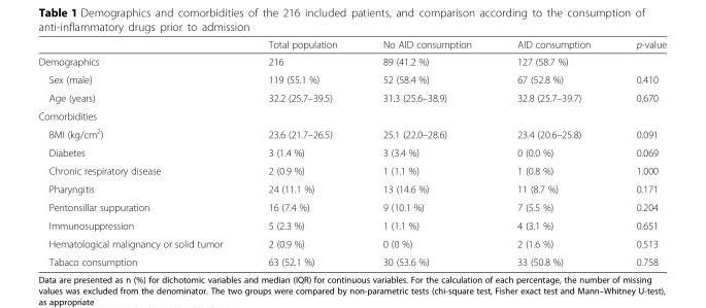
<table><thead><tr><td></td><td>Total population</td><td>No AID consumption</td><td>AID consumption</td><td>p-value</td></tr></thead><tbody><tr><td>Demographics</td><td>216</td><td>89 (41.2 %)</td><td>127 (58.7 %)</td><td></td></tr><tr><td>Sex (male)</td><td>119 (55.1 %)</td><td>52 (58.4 %)</td><td>67 (52.8 %)</td><td>0.410</td></tr><tr><td>Age (years)</td><td>32.2 (25.7–39.5)</td><td>31.3 (25.6–38.9)</td><td>32.8 (25.7–39.7)</td><td>0.670</td></tr><tr><td colspan="5">Comorbidities</td></tr><tr><td>BMI (kg/cm<sup>2</sup>)</td><td>23.6 (21.7–26.5)</td><td>25.1 (22.0–28.6)</td><td>23.4 (20.6–25.8)</td><td>0.091</td></tr><tr><td>Diabetes</td><td>3 (1.4 %)</td><td>3 (3.4 %)</td><td>0 (0.0 %)</td><td>0.069</td></tr><tr><td>Chronic respiratory disease</td><td>2 (0.9 %)</td><td>1 (1.1 %)</td><td>1 (0.8 %)</td><td>1.000</td></tr><tr><td>Pharyngitis</td><td>24 (11.1 %)</td><td>13 (14.6 %)</td><td>11 (8.7 %)</td><td>0.171</td></tr><tr><td>Peritonsillar suppuration</td><td>16 (7.4 %)</td><td>9 (10.1 %)</td><td>7 (5.5 %)</td><td>0.204</td></tr><tr><td>Immunosuppression</td><td>5 (2.3 %)</td><td>1 (1.1 %)</td><td>4 (3.1 %)</td><td>0.651</td></tr><tr><td>Hematological malignancy or solid tumor</td><td>2 (0.9 %)</td><td>0 (0 %)</td><td>2 (1.6 %)</td><td>0.513</td></tr><tr><td>Tabaco consumption</td><td>63 (52.1 %)</td><td>30 (53.6 %)</td><td>33 (50.8 %)</td><td>0.758</td></tr></tbody></table>